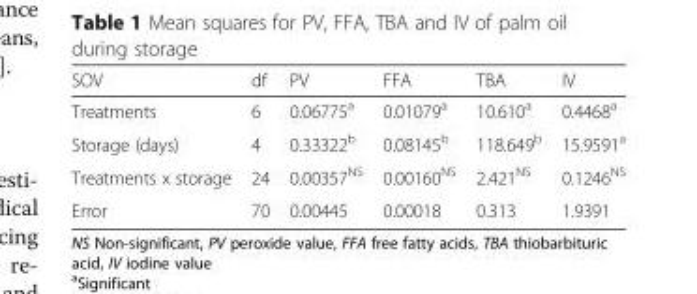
<table><thead><tr><td>SOV</td><td>df</td><td>PV</td><td>FFA</td><td>TBA</td><td>IV</td></tr></thead><tbody><tr><td>Treatments</td><td>6</td><td>0.06775<sup>a</sup></td><td>0.01079<sup>a</sup></td><td>10.610<sup>a</sup></td><td>0.4468<sup>a</sup></td></tr><tr><td>Storage (days)</td><td>4</td><td>0.33322<sup>b</sup></td><td>0.08145<sup>b</sup></td><td>118.649<sup>b</sup></td><td>15.9591<sup>a</sup></td></tr><tr><td>Treatments x storage</td><td>24</td><td>0.00357<sup>NS</sup></td><td>0.00160<sup>NS</sup></td><td>2.421<sup>NS</sup></td><td>0.1246<sup>NS</sup></td></tr><tr><td>Error</td><td>70</td><td>0.00445</td><td>0.00018</td><td>0.313</td><td>1.9391</td></tr></tbody></table>